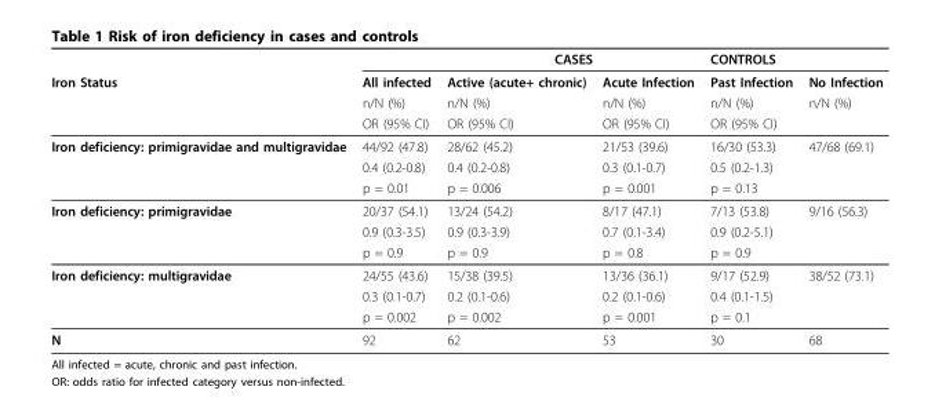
<table><thead><tr><td rowspan="4">Iron Status</td><td rowspan="4">All infected n/N (%) OR (95% CI)</td><td colspan="2">CASES</td><td rowspan="4">CONTROLS Past Infection n/N (%) OR (95% CI)</td><td rowspan="4">No Infection n/N (%)</td></tr><tr><td rowspan="3">Active (acute+ chronic) n/N (%) OR (95% CI)</td><td rowspan="3">Acute Infection n/N (%) OR (95% CI)</td></tr><tr></tr><tr></tr></thead><tbody><tr><td rowspan="3">Iron deficiency: primigravidae and multigravidae</td><td>44/92 (47.8)</td><td>28/62 (45.2)</td><td>21/53 (39.6)</td><td>16/30 (53.3)</td><td>47/68 (69.1)</td></tr><tr><td>0.4 (0.2-0.8)</td><td>0.4 (0.2-0.8)</td><td>0.3 (0.1-0.7)</td><td>0.5 (0.2-1.3)</td><td></td></tr><tr><td>p = 0.01</td><td>p = 0.006</td><td>p = 0.001</td><td>p = 0.13</td><td></td></tr><tr><td rowspan="3">Iron deficiency: primigravidae</td><td>20/37 (54.1)</td><td>13/24 (54.2)</td><td>8/17 (47.1)</td><td>7/13 (53.8)</td><td>9/16 (56.3)</td></tr><tr><td>0.9 (0.3-3.5)</td><td>0.9 (0.3-3.9)</td><td>0.7 (0.1-3.4)</td><td>0.9 (0.2-5.1)</td><td></td></tr><tr><td>p = 0.9</td><td>p = 0.9</td><td>p = 0.8</td><td>p = 0.9</td><td></td></tr><tr><td rowspan="3">Iron deficiency: multigravidae</td><td>24/55 (43.6)</td><td>15/38 (39.5)</td><td>13/36 (36.1)</td><td>9/17 (52.9)</td><td>38/52 (73.1)</td></tr><tr><td>0.3 (0.1-0.7)</td><td>0.2 (0.1-0.6)</td><td>0.2 (0.1-0.6)</td><td>0.4 (0.1-1.5)</td><td></td></tr><tr><td>p = 0.002</td><td>p = 0.002</td><td>p = 0.001</td><td>p = 0.1</td><td></td></tr><tr><td>N</td><td>92</td><td>62</td><td>53</td><td>30</td><td>68</td></tr></tbody></table>